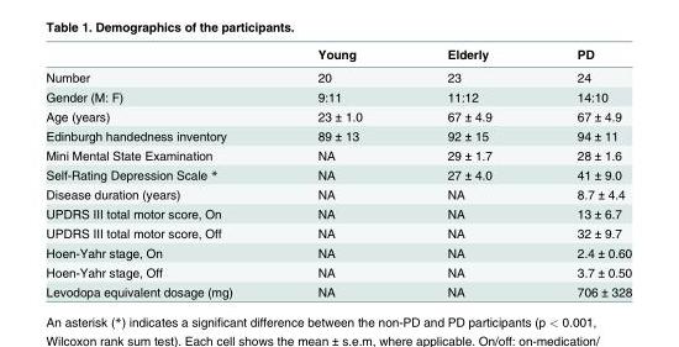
<table><thead><tr><td></td><td>Young</td><td>Elderly</td><td>PD</td></tr></thead><tbody><tr><td>Number</td><td>20</td><td>23</td><td>24</td></tr><tr><td>Gender (M: F)</td><td>9:11</td><td>11:12</td><td>14:10</td></tr><tr><td>Age (years)</td><td>23 ± 1.0</td><td>67 ± 4.9</td><td>67 ± 4.9</td></tr><tr><td>Edinburgh handedness inventory</td><td>89 ± 13</td><td>92 ± 15</td><td>94 ± 11</td></tr><tr><td>Mini Mental State Examination</td><td>NA</td><td>29 ± 1.7</td><td>28 ± 1.6</td></tr><tr><td>Self-Rating Depression Scale *</td><td>NA</td><td>27 ± 4.0</td><td>41 ± 9.0</td></tr><tr><td>Disease duration (years)</td><td>NA</td><td>NA</td><td>8.7 ± 4.4</td></tr><tr><td>UPDRS III total motor score, On</td><td>NA</td><td>NA</td><td>13 ± 6.7</td></tr><tr><td>UPDRS III total motor score, Off</td><td>NA</td><td>NA</td><td>32 ± 9.7</td></tr><tr><td>Hoen-Yahr stage, On</td><td>NA</td><td>NA</td><td>2.4 ± 0.60</td></tr><tr><td>Hoen-Yahr stage, Off</td><td>NA</td><td>NA</td><td>3.7 ± 0.50</td></tr><tr><td>Levodopa equivalent dosage (mg)</td><td>NA</td><td>NA</td><td>706 ± 328</td></tr></tbody></table>